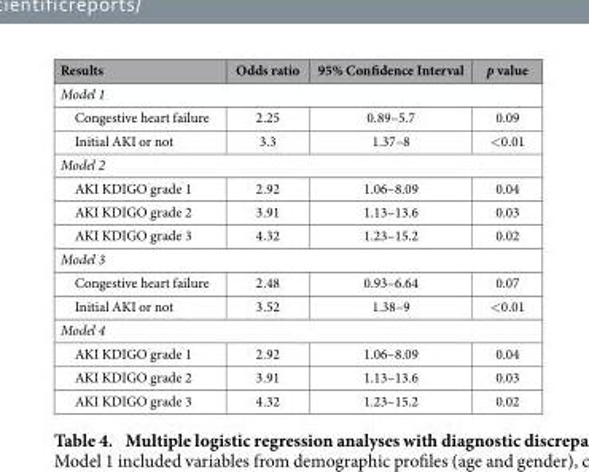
<table><thead><tr><td>Results</td><td>Odds ratio</td><td>95% Confidence Interval</td><td>p value</td></tr></thead><tbody><tr><td colspan="4">Model 1</td></tr><tr><td>Congestive heart failure</td><td>2.25</td><td>0.89–5.7</td><td>0.09</td></tr><tr><td>Initial AKI or not</td><td>3.3</td><td>1.37–8</td><td>&lt; 0.01</td></tr><tr><td colspan="4">Model 2</td></tr><tr><td>AKI KDIGO grade 1</td><td>2.92</td><td>1.06–8.09</td><td>0.04</td></tr><tr><td>AKI KDIGO grade 2</td><td>3.91</td><td>1.13–13.6</td><td>0.03</td></tr><tr><td>AKI KDIGO grade 3</td><td>4.32</td><td>1.23–15.2</td><td>0.02</td></tr><tr><td colspan="4">Model 3</td></tr><tr><td>Congestive heart failure</td><td>2.48</td><td>0.93–6.64</td><td>0.07</td></tr><tr><td>Initial AKI or not</td><td>3.52</td><td>1.38–9</td><td>&lt; 0.01</td></tr><tr><td colspan="4">Model 4</td></tr><tr><td>AKI KDIGO grade 1</td><td>2.92</td><td>1.06–8.09</td><td>0.04</td></tr><tr><td>AKI KDIGO grade 2</td><td>3.91</td><td>1.13–13.6</td><td>0.03</td></tr><tr><td>AKI KDIGO grade 3</td><td>4.32</td><td>1.23–15.2</td><td>0.02</td></tr></tbody></table>